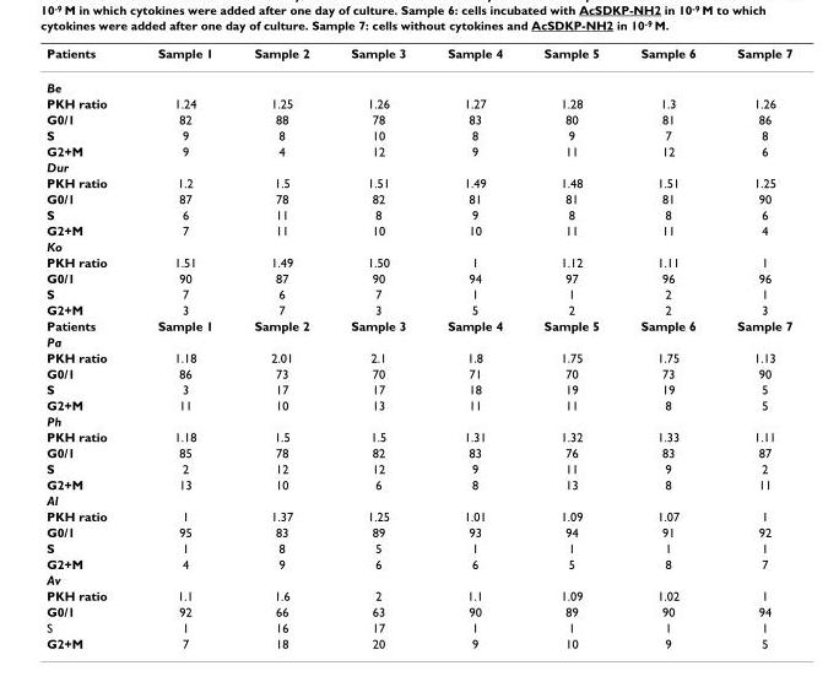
<table><thead><tr><td>Patients</td><td>Sample 1</td><td>Sample 2</td><td>Sample 3</td><td>Sample 4</td><td>Sample 5</td><td>Sample 6</td><td>Sample 7</td></tr></thead><tbody><tr><td colspan="8">Be</td></tr><tr><td>PKH ratio</td><td>1.24</td><td>1.25</td><td>1.26</td><td>1.27</td><td>1.28</td><td>1.3</td><td>1.26</td></tr><tr><td>G0/1</td><td>82</td><td>88</td><td>78</td><td>83</td><td>80</td><td>81</td><td>86</td></tr><tr><td>S</td><td>9</td><td>8</td><td>10</td><td>8</td><td>9</td><td>7</td><td>8</td></tr><tr><td>G2+M</td><td>9</td><td>4</td><td>12</td><td>9</td><td>11</td><td>12</td><td>6</td></tr><tr><td colspan="8">Dur</td></tr><tr><td>PKH ratio</td><td>1.2</td><td>1.5</td><td>1.51</td><td>1.49</td><td>1.48</td><td>1.51</td><td>1.25</td></tr><tr><td>G0/1</td><td>87</td><td>78</td><td>82</td><td>81</td><td>81</td><td>81</td><td>90</td></tr><tr><td>S</td><td>6</td><td>11</td><td>8</td><td>9</td><td>8</td><td>8</td><td>6</td></tr><tr><td>G2+M</td><td>7</td><td>11</td><td>10</td><td>10</td><td>11</td><td>11</td><td>4</td></tr><tr><td colspan="8">Ko</td></tr><tr><td>PKH ratio</td><td>1.51</td><td>1.49</td><td>1.50</td><td>1</td><td>1.12</td><td>1.11</td><td>1</td></tr><tr><td>G0/1</td><td>90</td><td>87</td><td>90</td><td>94</td><td>97</td><td>96</td><td>96</td></tr><tr><td>S</td><td>7</td><td>6</td><td>7</td><td>1</td><td>1</td><td>2</td><td>1</td></tr><tr><td>G2+M</td><td>3</td><td>7</td><td>3</td><td>5</td><td>2</td><td>2</td><td>3</td></tr><tr><td>Patients</td><td>Sample 1</td><td>Sample 2</td><td>Sample 3</td><td>Sample 4</td><td>Sample 5</td><td>Sample 6</td><td>Sample 7</td></tr><tr><td colspan="8">Pa</td></tr><tr><td>PKH ratio</td><td>1.18</td><td>2.01</td><td>2.1</td><td>1.8</td><td>1.75</td><td>1.75</td><td>1.13</td></tr><tr><td>G0/1</td><td>86</td><td>73</td><td>70</td><td>71</td><td>70</td><td>73</td><td>90</td></tr><tr><td>S</td><td>3</td><td>17</td><td>17</td><td>18</td><td>19</td><td>19</td><td>5</td></tr><tr><td>G2+M</td><td>11</td><td>10</td><td>13</td><td>11</td><td>11</td><td>8</td><td>5</td></tr><tr><td colspan="8">Ph</td></tr><tr><td>PKH ratio</td><td>1.18</td><td>1.5</td><td>1.5</td><td>1.31</td><td>1.32</td><td>1.33</td><td>1.11</td></tr><tr><td>G0/1</td><td>85</td><td>78</td><td>82</td><td>83</td><td>76</td><td>83</td><td>87</td></tr><tr><td>S</td><td>2</td><td>12</td><td>12</td><td>9</td><td>11</td><td>9</td><td>2</td></tr><tr><td>G2+M</td><td>13</td><td>10</td><td>6</td><td>8</td><td>13</td><td>8</td><td>11</td></tr><tr><td colspan="8">Al</td></tr><tr><td>PKH ratio</td><td>1</td><td>1.37</td><td>1.25</td><td>1.01</td><td>1.09</td><td>1.07</td><td>1</td></tr><tr><td>G0/1</td><td>95</td><td>83</td><td>89</td><td>93</td><td>94</td><td>91</td><td>92</td></tr><tr><td>S</td><td>1</td><td>8</td><td>5</td><td>1</td><td>1</td><td>1</td><td>1</td></tr><tr><td>G2+M</td><td>4</td><td>9</td><td>6</td><td>6</td><td>5</td><td>8</td><td>7</td></tr><tr><td colspan="8">Av</td></tr><tr><td>PKH ratio</td><td>1.1</td><td>1.6</td><td>2</td><td>1.1</td><td>1.09</td><td>1.02</td><td>1</td></tr><tr><td>G0/1</td><td>92</td><td>66</td><td>63</td><td>90</td><td>89</td><td>90</td><td>94</td></tr><tr><td>S</td><td>1</td><td>16</td><td>17</td><td>1</td><td>1</td><td>1</td><td>1</td></tr><tr><td>G2+M</td><td>7</td><td>18</td><td>20</td><td>9</td><td>10</td><td>9</td><td>5</td></tr></tbody></table>